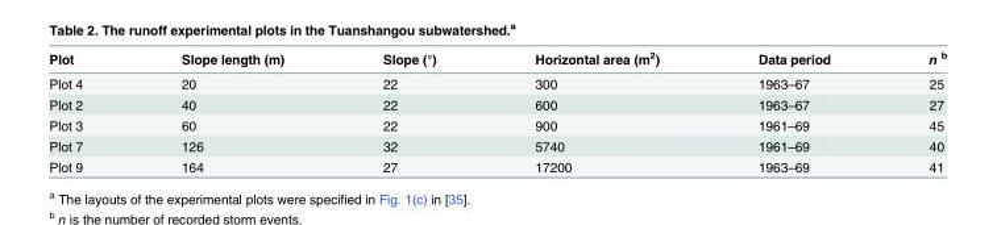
<table><thead><tr><td>Plot</td><td>Slope length (m)</td><td>Slope (°)</td><td>Horizontal area (m<sup>2</sup>)</td><td>Data period</td><td>n <sup>b</sup></td></tr></thead><tbody><tr><td>Plot 4</td><td>20</td><td>22</td><td>300</td><td>1963–67</td><td>25</td></tr><tr><td>Plot 2</td><td>40</td><td>22</td><td>600</td><td>1963–67</td><td>27</td></tr><tr><td>Plot 3</td><td>60</td><td>22</td><td>900</td><td>1961–69</td><td>45</td></tr><tr><td>Plot 7</td><td>126</td><td>32</td><td>5740</td><td>1961–69</td><td>40</td></tr><tr><td>Plot 9</td><td>164</td><td>27</td><td>17200</td><td>1963–69</td><td>41</td></tr></tbody></table>